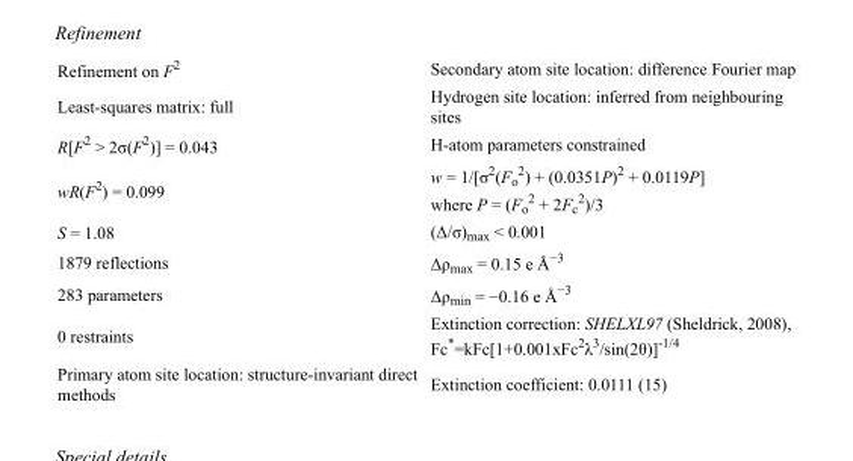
<table><tbody><tr><td>Refinement on F<sup>2</sup></td><td>Secondary atom site location: difference Fourier map</td></tr><tr><td>Least-squares matrix: full</td><td>Hydrogen site location: inferred from neighbouring sites</td></tr><tr><td>R[F<sup>2</sup> &gt; 2σ(F<sup>2</sup>)] = 0.043</td><td>H-atom parameters constrained</td></tr><tr><td>wR(F<sup>2</sup>) = 0.099</td><td>w = 1/[σ<sup>2</sup>(F<sub>o</sub> <sup>2</sup>) + (0.0351P)<sup>2</sup> + 0.0119P] where P = (F<sub>o</sub> <sup>2</sup> + 2F<sub>c</sub> <sup>2</sup>)/3</td></tr><tr><td>S = 1.08</td><td>(Δ/σ)<sub>max</sub> &lt; 0.001</td></tr><tr><td>1879 reflections</td><td>Δρ<sub>max</sub> = 0.15 e Å<sup>−3</sup></td></tr><tr><td>283 parameters</td><td>Δρ<sub>min</sub> = −0.16 e Å<sup>−3</sup></td></tr><tr><td>0 restraints</td><td>Extinction correction: SHELXL97 (Sheldrick, 2008), Fc*=kFc[1+0.001xFc<sup>2</sup>λ<sup>3</sup>/sin(2θ)]<sup>-1/4</sup></td></tr><tr><td>Primary atom site location: structure-invariant direct methods</td><td>Extinction coefficient: 0.0111 (15)</td></tr></tbody></table>